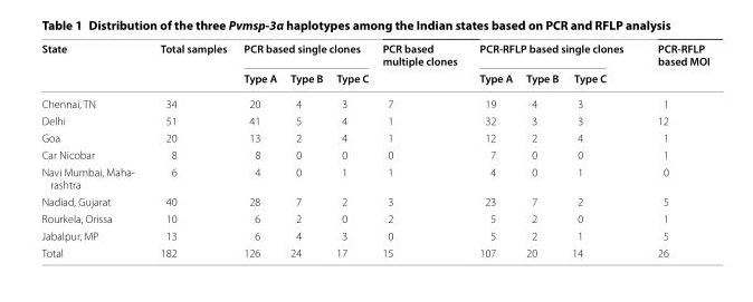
<table><thead><tr><td rowspan="2">State</td><td rowspan="2">Total samples</td><td colspan="3">PCR based single clones</td><td rowspan="2">PCR based multiple clones</td><td colspan="3">PCR‑RFLP based single clones</td><td rowspan="2">PCR‑RFLP based MOI</td></tr><tr><td>Type A</td><td>Type B</td><td>Type C</td><td>Type A</td><td>Type B</td><td>Type C</td></tr></thead><tbody><tr><td>Chennai, TN</td><td>34</td><td>20</td><td>4</td><td>3</td><td>7</td><td>19</td><td>4</td><td>3</td><td>1</td></tr><tr><td>Delhi</td><td>51</td><td>41</td><td>5</td><td>4</td><td>1</td><td>32</td><td>3</td><td>3</td><td>12</td></tr><tr><td>Goa</td><td>20</td><td>13</td><td>2</td><td>4</td><td>1</td><td>12</td><td>2</td><td>4</td><td>1</td></tr><tr><td>Car Nicobar</td><td>8</td><td>8</td><td>0</td><td>0</td><td>0</td><td>7</td><td>0</td><td>0</td><td>1</td></tr><tr><td>Navi Mumbai, Maha- rashtra</td><td>6</td><td>4</td><td>0</td><td>1</td><td>1</td><td>4</td><td>0</td><td>1</td><td>0</td></tr><tr><td>Nadiad, Gujarat</td><td>40</td><td>28</td><td>7</td><td>2</td><td>3</td><td>23</td><td>7</td><td>2</td><td>5</td></tr><tr><td>Rourkela, Orissa</td><td>10</td><td>6</td><td>2</td><td>0</td><td>2</td><td>5</td><td>2</td><td>0</td><td>1</td></tr><tr><td>Jabalpur, MP</td><td>13</td><td>6</td><td>4</td><td>3</td><td>0</td><td>5</td><td>2</td><td>1</td><td>5</td></tr><tr><td>Total</td><td>182</td><td>126</td><td>24</td><td>17</td><td>15</td><td>107</td><td>20</td><td>14</td><td>26</td></tr></tbody></table>